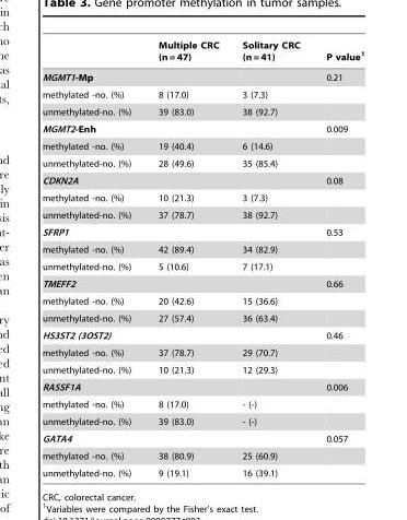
<table><thead><tr><td></td><td>Multiple CRC (n = 47)</td><td>Solitary CRC (n = 41)</td><td>P value<sup>1</sup></td></tr></thead><tbody><tr><td>MGMT1-Mp</td><td></td><td></td><td>0.21</td></tr><tr><td>methylated -no. (%)</td><td>8 (17.0)</td><td>3 (7.3)</td><td></td></tr><tr><td>unmethylated-no. (%)</td><td>39 (83.0)</td><td>38 (92.7)</td><td></td></tr><tr><td>MGMT2-Enh</td><td></td><td></td><td>0.009</td></tr><tr><td>methylated -no. (%)</td><td>19 (40.4)</td><td>6 (14.6)</td><td></td></tr><tr><td>unmethylated-no. (%)</td><td>28 (49.6)</td><td>35 (85.4)</td><td></td></tr><tr><td>CDKN2A</td><td></td><td></td><td>0.08</td></tr><tr><td>methylated -no. (%)</td><td>10 (21.3)</td><td>3 (7.3)</td><td></td></tr><tr><td>unmethylated-no. (%)</td><td>37 (78.7)</td><td>38 (92.7)</td><td></td></tr><tr><td>SFRP1</td><td></td><td></td><td>0.53</td></tr><tr><td>methylated -no. (%)</td><td>42 (89.4)</td><td>34 (82.9)</td><td></td></tr><tr><td>unmethylated-no. (%)</td><td>5 (10.6)</td><td>7 (17.1)</td><td></td></tr><tr><td>TMEFF2</td><td></td><td></td><td>0.66</td></tr><tr><td>methylated -no. (%)</td><td>20 (42.6)</td><td>15 (36.6)</td><td></td></tr><tr><td>unmethylated-no. (%)</td><td>27 (57.4)</td><td>36 (63.4)</td><td></td></tr><tr><td>HS3ST2 (3OST2)</td><td></td><td></td><td>0.46</td></tr><tr><td>methylated -no. (%)</td><td>37 (78.7)</td><td>29 (70.7)</td><td></td></tr><tr><td>unmethylated-no. (%)</td><td>10 (21.3)</td><td>12 (29.3)</td><td></td></tr><tr><td>RASSF1A</td><td></td><td></td><td>0.006</td></tr><tr><td>methylated -no. (%)</td><td>8 (17.0)</td><td>- (-)</td><td></td></tr><tr><td>unmethylated-no. (%)</td><td>39 (83.0)</td><td>- (-)</td><td></td></tr><tr><td>GATA4</td><td></td><td></td><td>0.057</td></tr><tr><td>methylated -no. (%)</td><td>38 (80.9)</td><td>25 (60.9)</td><td></td></tr><tr><td>unmethylated-no. (%)</td><td>9 (19.1)</td><td>16 (39.1)</td><td></td></tr></tbody></table>